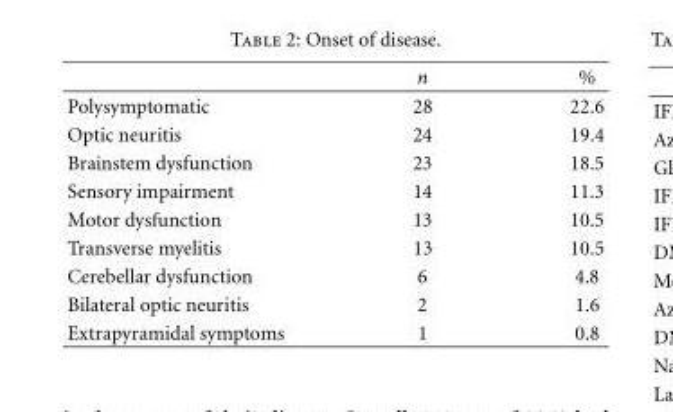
<table><thead><tr><td></td><td>n</td><td>%</td></tr></thead><tbody><tr><td>Polysymptomatic</td><td>28</td><td>22.6</td></tr><tr><td>Optic neuritis</td><td>24</td><td>19.4</td></tr><tr><td>Brainstem dysfunction</td><td>23</td><td>18.5</td></tr><tr><td>Sensory impairment</td><td>14</td><td>11.3</td></tr><tr><td>Motor dysfunction</td><td>13</td><td>10.5</td></tr><tr><td>Transverse myelitis</td><td>13</td><td>10.5</td></tr><tr><td>Cerebellar dysfunction</td><td>6</td><td>4.8</td></tr><tr><td>Bilateral optic neuritis</td><td>2</td><td>1.6</td></tr><tr><td>Extrapyramidal symptoms</td><td>1</td><td>0.8</td></tr></tbody></table>